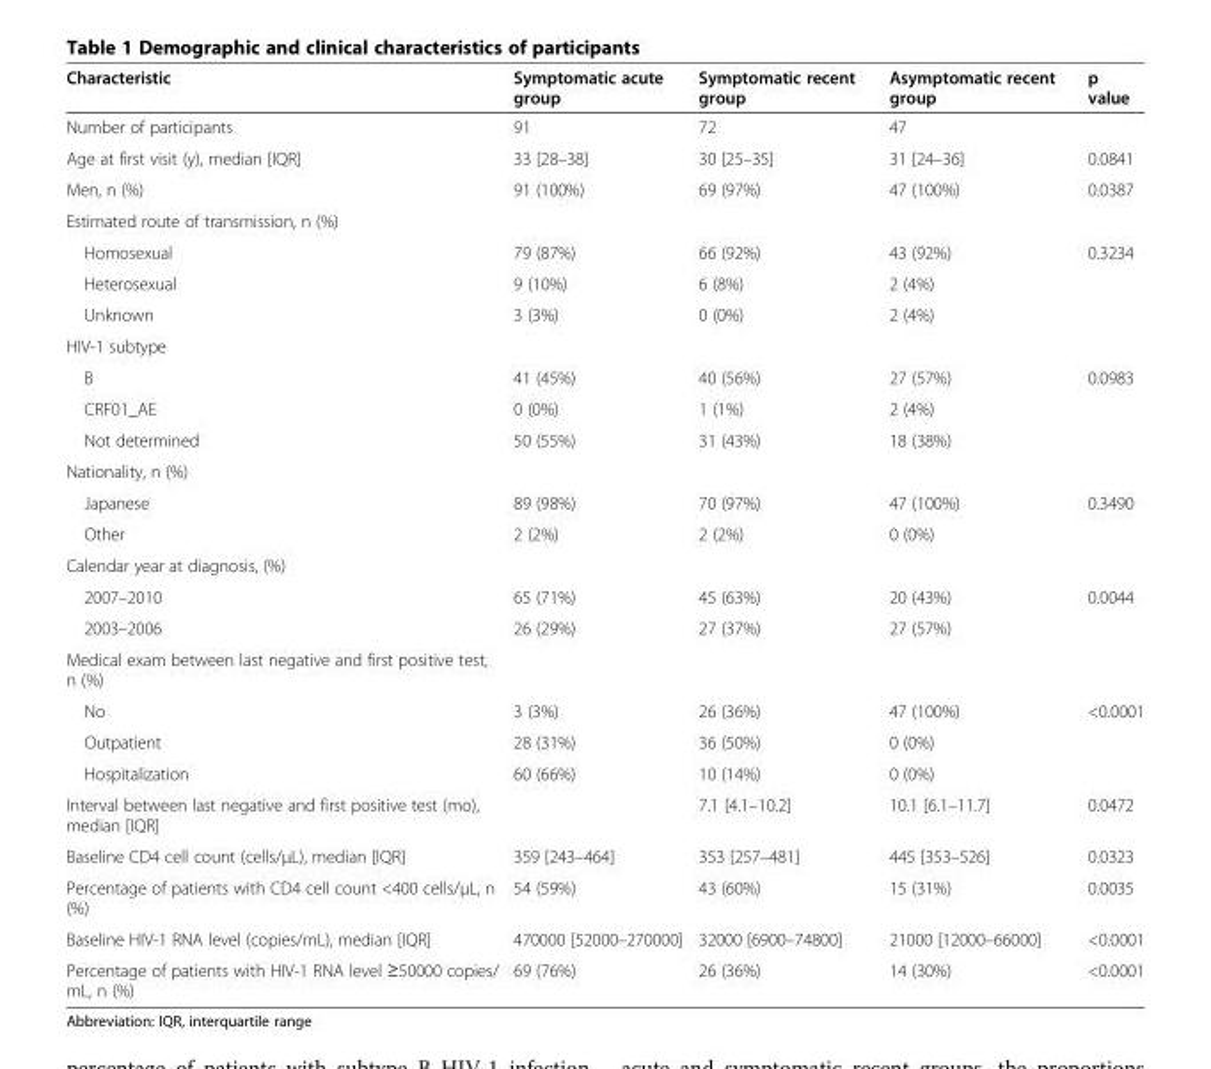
<table><thead><tr><td>Characteristic</td><td>Symptomatic acute group</td><td>Symptomatic recent group</td><td>Asymptomatic recent group</td><td>p value</td></tr></thead><tbody><tr><td>Number of participants</td><td>91</td><td>72</td><td>47</td><td></td></tr><tr><td>Age at first visit (y), median [IQR]</td><td>33 [28–38]</td><td>30 [25–35]</td><td>31 [24–36]</td><td>0.0841</td></tr><tr><td>Men, n (%)</td><td>91 (100%)</td><td>69 (97%)</td><td>47 (100%)</td><td>0.0387</td></tr><tr><td colspan="5">Estimated route of transmission, n (%)</td></tr><tr><td>Homosexual</td><td>79 (87%)</td><td>66 (92%)</td><td>43 (92%)</td><td>0.3234</td></tr><tr><td>Heterosexual</td><td>9 (10%)</td><td>6 (8%)</td><td>2 (4%)</td><td></td></tr><tr><td>Unknown</td><td>3 (3%)</td><td>0 (0%)</td><td>2 (4%)</td><td></td></tr><tr><td colspan="5">HIV-1 subtype</td></tr><tr><td>B</td><td>41 (45%)</td><td>40 (56%)</td><td>27 (57%)</td><td>0.0983</td></tr><tr><td>CRF01_AE</td><td>0 (0%)</td><td>1 (1%)</td><td>2 (4%)</td><td></td></tr><tr><td>Not determined</td><td>50 (55%)</td><td>31 (43%)</td><td>18 (38%)</td><td></td></tr><tr><td colspan="5">Nationality, n (%)</td></tr><tr><td>Japanese</td><td>89 (98%)</td><td>70 (97%)</td><td>47 (100%)</td><td>0.3490</td></tr><tr><td>Other</td><td>2 (2%)</td><td>2 (2%)</td><td>0 (0%)</td><td></td></tr><tr><td colspan="5">Calendar year at diagnosis, (%)</td></tr><tr><td>2007–2010</td><td>65 (71%)</td><td>45 (63%)</td><td>20 (43%)</td><td>0.0044</td></tr><tr><td>2003–2006</td><td>26 (29%)</td><td>27 (37%)</td><td>27 (57%)</td><td></td></tr><tr><td colspan="5">Medical exam between last negative and first positive test, n (%)</td></tr><tr><td>No</td><td>3 (3%)</td><td>26 (36%)</td><td>47 (100%)</td><td>&lt;0.0001</td></tr><tr><td>Outpatient</td><td>28 (31%)</td><td>36 (50%)</td><td>0 (0%)</td><td></td></tr><tr><td>Hospitalization</td><td>60 (66%)</td><td>10 (14%)</td><td>0 (0%)</td><td></td></tr><tr><td>Interval between last negative and first positive test (mo), median [IQR]</td><td></td><td>7.1 [4.1–10.2]</td><td>10.1 [6.1–11.7]</td><td>0.0472</td></tr><tr><td>Baseline CD4 cell count (cells/μL), median [IQR]</td><td>359 [243–464]</td><td>353 [257–481]</td><td>445 [353–526]</td><td>0.0323</td></tr><tr><td>Percentage of patients with CD4 cell count &lt;400 cells/μL, n (%)</td><td>54 (59%)</td><td>43 (60%)</td><td>15 (31%)</td><td>0.0035</td></tr><tr><td>Baseline HIV-1 RNA level (copies/mL), median [IQR]</td><td>470000 [52000–270000]</td><td>32000 [6900–74800]</td><td>21000 [12000–66000]</td><td>&lt;0.0001</td></tr><tr><td>Percentage of patients with HIV-1 RNA level ≥50000 copies/ mL, n (%)</td><td>69 (76%)</td><td>26 (36%)</td><td>14 (30%)</td><td>&lt;0.0001</td></tr></tbody></table>